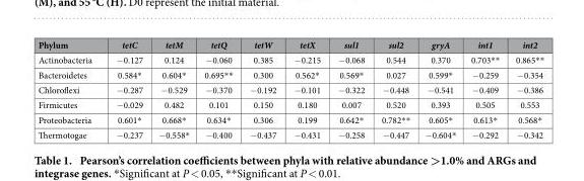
<table><thead><tr><td>Phylum</td><td>tetC</td><td>tetM</td><td>tetQ</td><td>tetW</td><td>tetX</td><td>sul1</td><td>sul2</td><td>gryA</td><td>int1</td><td>int2</td></tr></thead><tbody><tr><td>Actinobacteria</td><td>− 0.127</td><td>0.124</td><td>− 0.060</td><td>0.385</td><td>− 0.215</td><td>− 0.068</td><td>0.544</td><td>0.370</td><td>0.703* *</td><td>0.865* *</td></tr><tr><td>Bacteroidetes</td><td>0.584*</td><td>0.604*</td><td>0.695* *</td><td>0.300</td><td>0.562*</td><td>0.569*</td><td>0.027</td><td>0.599*</td><td>− 0.259</td><td>− 0.354</td></tr><tr><td>Chloroflexi</td><td>− 0.287</td><td>− 0.529</td><td>− 0.370</td><td>− 0.192</td><td>− 0.101</td><td>− 0.322</td><td>− 0.448</td><td>− 0.541</td><td>− 0.409</td><td>− 0.386</td></tr><tr><td>Firmicutes</td><td>− 0.029</td><td>0.482</td><td>0.101</td><td>0.150</td><td>0.180</td><td>0.007</td><td>0.520</td><td>0.393</td><td>0.505</td><td>0.553</td></tr><tr><td>Proteobacteria</td><td>0.601*</td><td>0.668*</td><td>0.634*</td><td>0.306</td><td>0.199</td><td>0.642*</td><td>0.782* *</td><td>0.605*</td><td>0.613*</td><td>0.568*</td></tr><tr><td>Thermotogae</td><td>− 0.237</td><td>− 0.558*</td><td>− 0.400</td><td>− 0.437</td><td>− 0.431</td><td>− 0.258</td><td>− 0.447</td><td>− 0.604*</td><td>− 0.292</td><td>− 0.342</td></tr></tbody></table>